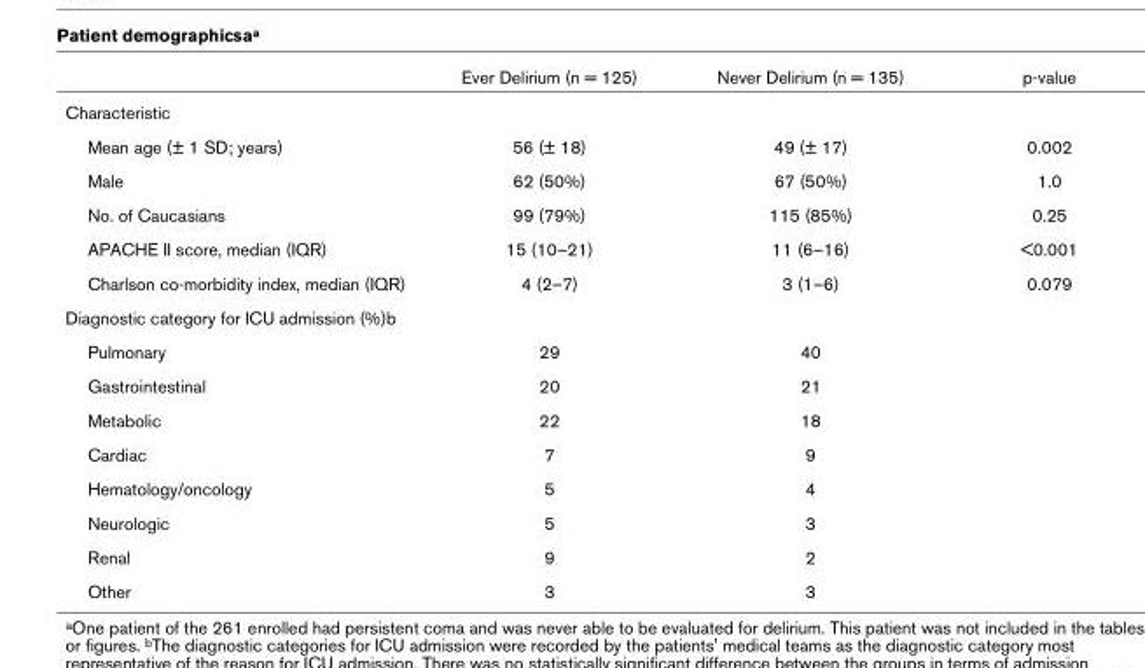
<table><thead><tr><td></td><td>Ever Delirium (n = 125)</td><td>Never Delirium (n = 135)</td><td>p-value</td></tr></thead><tbody><tr><td colspan="4">Characteristic</td></tr><tr><td>Mean age (± 1 SD; years)</td><td>56 (± 18)</td><td>49 (± 17)</td><td>0.002</td></tr><tr><td>Male</td><td>62 (50%)</td><td>67 (50%)</td><td>1.0</td></tr><tr><td>No. of Caucasians</td><td>99 (79%)</td><td>115 (85%)</td><td>0.25</td></tr><tr><td>APACHE II score, median (IQR)</td><td>15 (10–21)</td><td>11 (6–16)</td><td>&lt;0.001</td></tr><tr><td>Charlson co-morbidity index, median (IQR)</td><td>4 (2–7)</td><td>3 (1–6)</td><td>0.079</td></tr><tr><td colspan="4">Diagnostic category for ICU admission (%)b</td></tr><tr><td>Pulmonary</td><td>29</td><td>40</td><td></td></tr><tr><td>Gastrointestinal</td><td>20</td><td>21</td><td></td></tr><tr><td>Metabolic</td><td>22</td><td>18</td><td></td></tr><tr><td>Cardiac</td><td>7</td><td>9</td><td></td></tr><tr><td>Hematology/oncology</td><td>5</td><td>4</td><td></td></tr><tr><td>Neurologic</td><td>5</td><td>3</td><td></td></tr><tr><td>Renal</td><td>9</td><td>2</td><td></td></tr><tr><td>Other</td><td>3</td><td>3</td><td></td></tr></tbody></table>